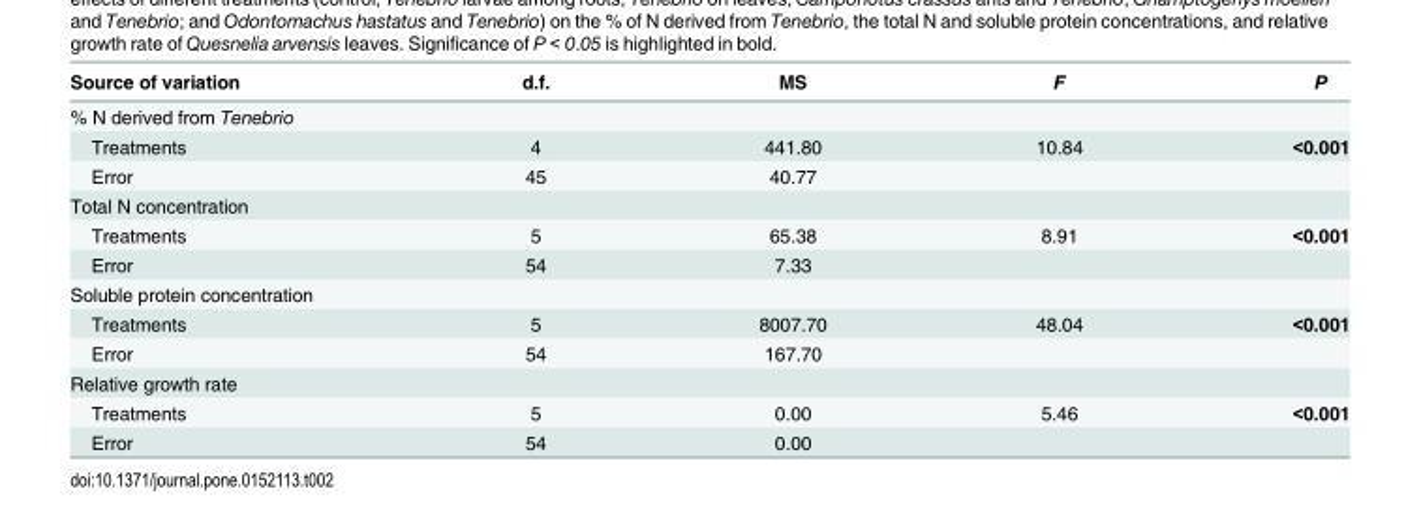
<table><thead><tr><td>Source of variation</td><td>d.f.</td><td>MS</td><td>F</td><td>P</td></tr></thead><tbody><tr><td colspan="5">% N derived from Tenebrio</td></tr><tr><td>Treatments</td><td>4</td><td>441.80</td><td>10.84</td><td>&lt;0.001</td></tr><tr><td>Error</td><td>45</td><td>40.77</td><td></td><td></td></tr><tr><td colspan="5">Total N concentration</td></tr><tr><td>Treatments</td><td>5</td><td>65.38</td><td>8.91</td><td>&lt;0.001</td></tr><tr><td>Error</td><td>54</td><td>7.33</td><td></td><td></td></tr><tr><td colspan="5">Soluble protein concentration</td></tr><tr><td>Treatments</td><td>5</td><td>8007.70</td><td>48.04</td><td>&lt;0.001</td></tr><tr><td>Error</td><td>54</td><td>167.70</td><td></td><td></td></tr><tr><td colspan="5">Relative growth rate</td></tr><tr><td>Treatments</td><td>5</td><td>0.00</td><td>5.46</td><td>&lt;0.001</td></tr><tr><td>Error</td><td>54</td><td>0.00</td><td></td><td></td></tr></tbody></table>